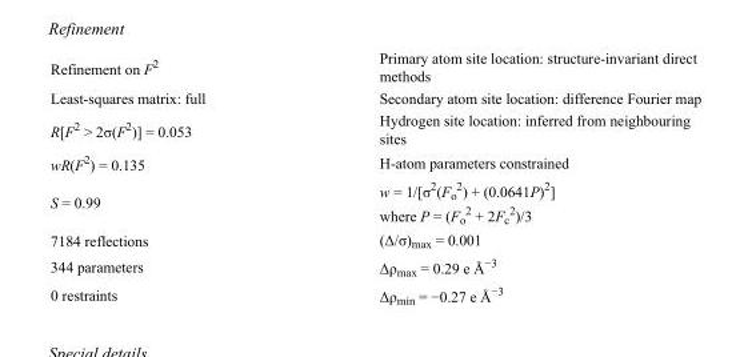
<table><tbody><tr><td>Refinement on F<sup>2</sup></td><td>Primary atom site location: structure-invariant direct methods</td></tr><tr><td>Least-squares matrix: full</td><td>Secondary atom site location: difference Fourier map</td></tr><tr><td>R[F<sup>2</sup> &gt; 2σ(F<sup>2</sup>)] = 0.053</td><td>Hydrogen site location: inferred from neighbouring sites</td></tr><tr><td>wR(F<sup>2</sup>) = 0.135</td><td>H-atom parameters constrained</td></tr><tr><td>S = 0.99</td><td>w = 1/[σ<sup>2</sup>(F<sub>o</sub> <sup>2</sup>) + (0.0641P)<sup>2</sup>] where P = (F<sub>o</sub> <sup>2</sup> + 2F<sub>c</sub> <sup>2</sup>)/3</td></tr><tr><td>7184 reflections</td><td>(Δ/σ)<sub>max</sub> = 0.001</td></tr><tr><td>344 parameters</td><td>Δρ<sub>max</sub> = 0.29 e Å<sup>−3</sup></td></tr><tr><td>0 restraints</td><td>Δρ<sub>min</sub> = −0.27 e Å<sup>−3</sup></td></tr></tbody></table>